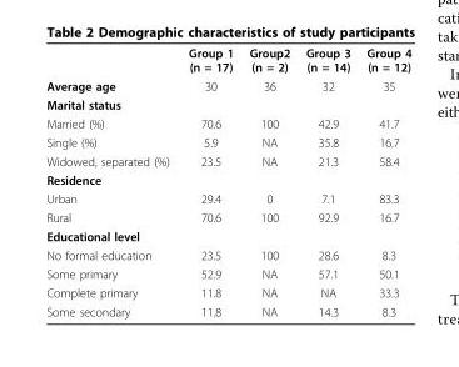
<table><thead><tr><td></td><td>Group 1 (n = 17)</td><td>Group2 (n = 2)</td><td>Group 3 (n = 14)</td><td>Group 4 (n = 12)</td></tr></thead><tbody><tr><td>Average age</td><td>30</td><td>36</td><td>32</td><td>35</td></tr><tr><td colspan="5">Marital status</td></tr><tr><td>Married (%)</td><td>70.6</td><td>100</td><td>42.9</td><td>41.7</td></tr><tr><td>Single (%)</td><td>5.9</td><td>NA</td><td>35.8</td><td>16.7</td></tr><tr><td>Widowed, separated (%)</td><td>23.5</td><td>NA</td><td>21.3</td><td>58.4</td></tr><tr><td colspan="5">Residence</td></tr><tr><td>Urban</td><td>29.4</td><td>0</td><td>7.1</td><td>83.3</td></tr><tr><td>Rural</td><td>70.6</td><td>100</td><td>92.9</td><td>16.7</td></tr><tr><td colspan="5">Educational level</td></tr><tr><td>No formal education</td><td>23.5</td><td>100</td><td>28.6</td><td>8.3</td></tr><tr><td>Some primary</td><td>52.9</td><td>NA</td><td>57.1</td><td>50.1</td></tr><tr><td>Complete primary</td><td>11.8</td><td>NA</td><td>NA</td><td>33.3</td></tr><tr><td>Some secondary</td><td>11.8</td><td>NA</td><td>14.3</td><td>8.3</td></tr></tbody></table>